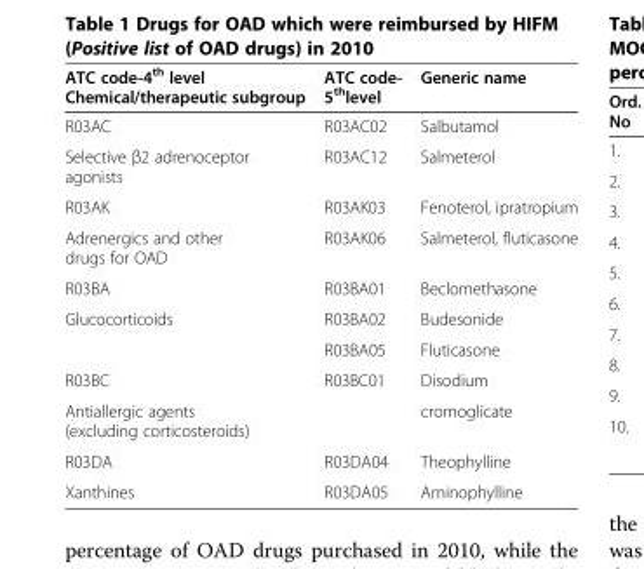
<table><thead><tr><td>ATC code-4<sup>th</sup> level Chemical/therapeutic subgroup</td><td>ATC code- 5<sup>th</sup>level</td><td>Generic name</td></tr></thead><tbody><tr><td>R03AC</td><td>R03AC02</td><td>Salbutamol</td></tr><tr><td>Selective β2 adrenoceptor agonists</td><td>R03AC12</td><td>Salmeterol</td></tr><tr><td>R03AK</td><td>R03AK03</td><td>Fenoterol, ipratropium</td></tr><tr><td>Adrenergics and other drugs for OAD</td><td>R03AK06</td><td>Salmeterol, fluticasone</td></tr><tr><td>R03BA</td><td>R03BA01</td><td>Beclomethasone</td></tr><tr><td rowspan="2">Glucocorticoids</td><td>R03BA02</td><td>Budesonide</td></tr><tr><td>R03BA05</td><td>Fluticasone</td></tr><tr><td>R03BC</td><td>R03BC01</td><td>Disodium</td></tr><tr><td>Antiallergic agents (excluding corticosteroids)</td><td></td><td>cromoglicate</td></tr><tr><td>R03DA</td><td>R03DA04</td><td>Theophylline</td></tr><tr><td>Xanthines</td><td>R03DA05</td><td>Aminophylline</td></tr></tbody></table>